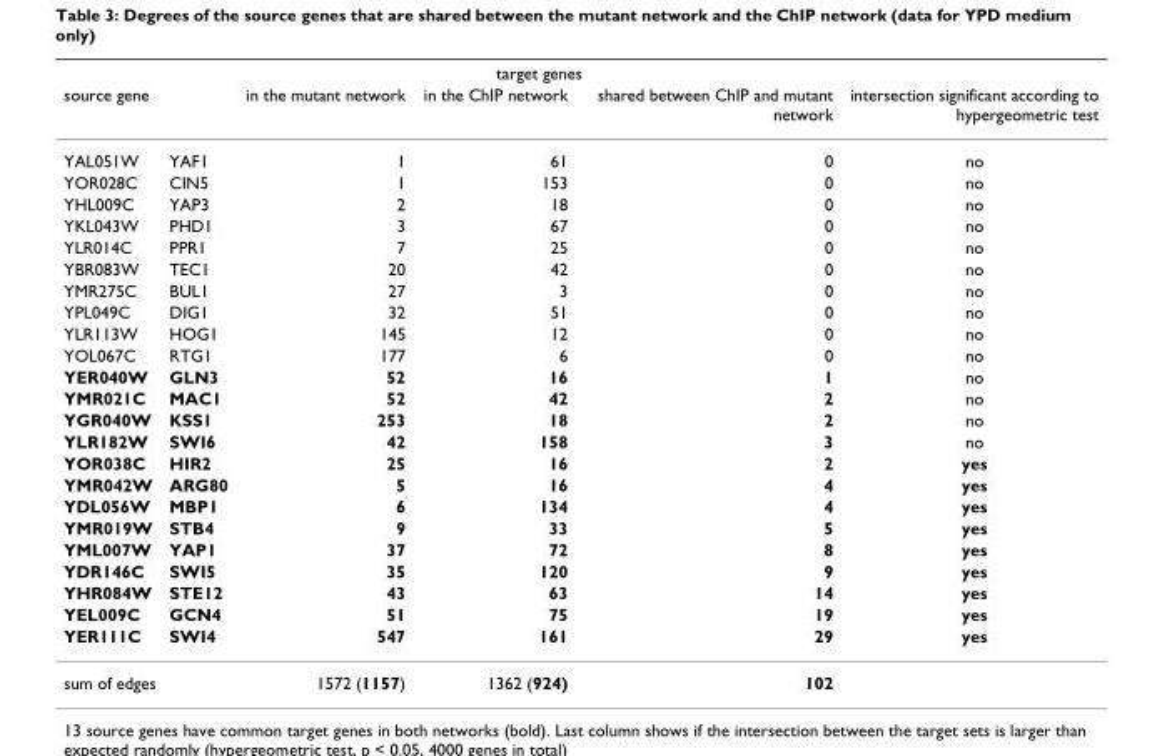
<table><thead><tr><td></td><td></td><td colspan="3">target genes</td><td rowspan="2">intersection significant according to hypergeometric test</td></tr><tr><td colspan="2">source gene</td><td>in the mutant network</td><td>in the ChIP network</td><td>shared between ChIP and mutant network</td></tr></thead><tbody><tr><td>YAL051W</td><td>YAF1</td><td>1</td><td>61</td><td>0</td><td>no</td></tr><tr><td>YOR028C</td><td>CIN5</td><td>1</td><td>153</td><td>0</td><td>no</td></tr><tr><td>YHL009C</td><td>YAP3</td><td>2</td><td>18</td><td>0</td><td>no</td></tr><tr><td>YKL043W</td><td>PHD1</td><td>3</td><td>67</td><td>0</td><td>no</td></tr><tr><td>YLR014C</td><td>PPR1</td><td>7</td><td>25</td><td>0</td><td>no</td></tr><tr><td>YBR083W</td><td>TEC1</td><td>20</td><td>42</td><td>0</td><td>no</td></tr><tr><td>YMR275C</td><td>BUL1</td><td>27</td><td>3</td><td>0</td><td>no</td></tr><tr><td>YPL049C</td><td>DIG1</td><td>32</td><td>51</td><td>0</td><td>no</td></tr><tr><td>YLR113W</td><td>HOG1</td><td>145</td><td>12</td><td>0</td><td>no</td></tr><tr><td>YOL067C</td><td>RTG1</td><td>177</td><td>6</td><td>0</td><td>no</td></tr><tr><td>YER040W</td><td>GLN3</td><td>52</td><td>16</td><td>1</td><td>no</td></tr><tr><td>YMR021C</td><td>MAC1</td><td>52</td><td>42</td><td>2</td><td>no</td></tr><tr><td>YGR040W</td><td>KSS1</td><td>253</td><td>18</td><td>2</td><td>no</td></tr><tr><td>YLR182W</td><td>SWI6</td><td>42</td><td>158</td><td>3</td><td>no</td></tr><tr><td>YOR038C</td><td>HIR2</td><td>25</td><td>16</td><td>2</td><td>yes</td></tr><tr><td>YMR042W</td><td>ARG80</td><td>5</td><td>16</td><td>4</td><td>yes</td></tr><tr><td>YDL056W</td><td>MBP1</td><td>6</td><td>134</td><td>4</td><td>yes</td></tr><tr><td>YMR019W</td><td>STB4</td><td>9</td><td>33</td><td>5</td><td>yes</td></tr><tr><td>YML007W</td><td>YAP1</td><td>37</td><td>72</td><td>8</td><td>yes</td></tr><tr><td>YDR146C</td><td>SWI5</td><td>35</td><td>120</td><td>9</td><td>yes</td></tr><tr><td>YHR084W</td><td>STE12</td><td>43</td><td>63</td><td>14</td><td>yes</td></tr><tr><td>YEL009C</td><td>GCN4</td><td>51</td><td>75</td><td>19</td><td>yes</td></tr><tr><td>YER111C</td><td>SWI4</td><td>547</td><td>161</td><td>29</td><td>yes</td></tr><tr><td colspan="2">sum of edges</td><td>1572 (1157)</td><td>1362 (924)</td><td>102</td><td></td></tr></tbody></table>